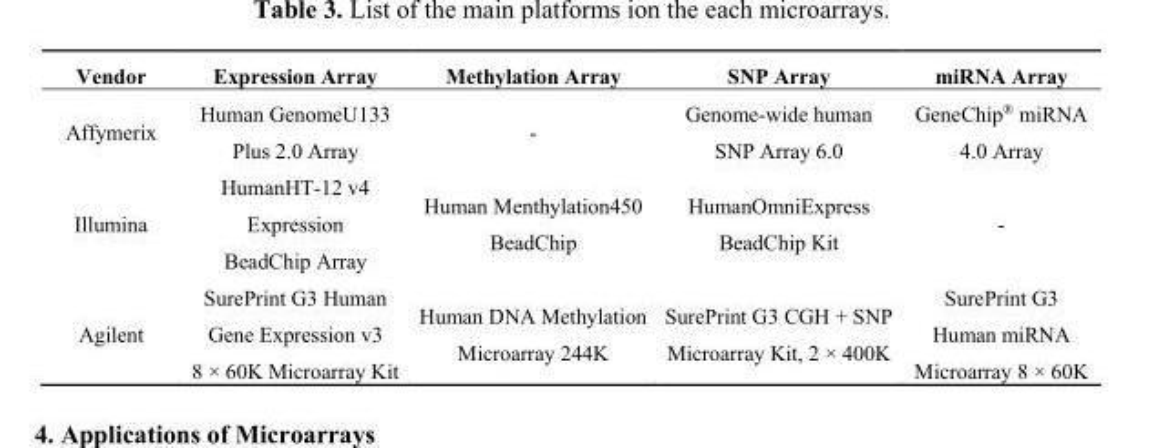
<table><thead><tr><td>Vendor</td><td>Expression Array</td><td>Methylation Array</td><td>SNP Array</td><td>miRNA Array</td></tr></thead><tbody><tr><td>Affymerix</td><td>Human GenomeU133 Plus 2.0 Array</td><td>-</td><td>Genome-wide human SNP Array 6.0</td><td>GeneChip<sup>®</sup> miRNA 4.0 Array</td></tr><tr><td>Illumina</td><td>HumanHT-12 v4 Expression BeadChip Array</td><td>Human Menthylation450 BeadChip</td><td>HumanOmniExpress BeadChip Kit</td><td>-</td></tr><tr><td>Agilent</td><td>SurePrint G3 Human Gene Expression v3 8 × 60K Microarray Kit</td><td>Human DNA Methylation Microarray 244K</td><td>SurePrint G3 CGH + SNP Microarray Kit, 2 × 400K</td><td>SurePrint G3 Human miRNA Microarray 8 × 60K</td></tr></tbody></table>